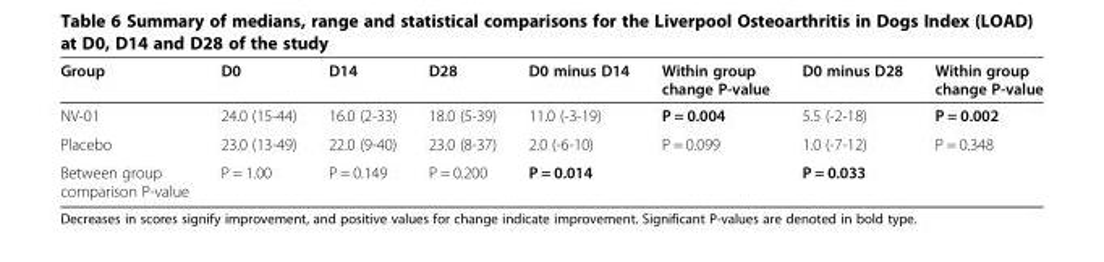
<table><thead><tr><td>Group</td><td>D0</td><td>D14</td><td>D28</td><td>D0 minus D14</td><td>Within group change P-value</td><td>D0 minus D28</td><td>Within group change P-value</td></tr></thead><tbody><tr><td>NV-01</td><td>24.0 (15-44)</td><td>16.0 (2-33)</td><td>18.0 (5-39)</td><td>11.0 (-3-19)</td><td>P = 0.004</td><td>5.5 (-2-18)</td><td>P = 0.002</td></tr><tr><td>Placebo</td><td>23.0 (13-49)</td><td>22.0 (9-40)</td><td>23.0 (8-37)</td><td>2.0 (-6-10)</td><td>P = 0.099</td><td>1.0 (-7-12)</td><td>P = 0.348</td></tr><tr><td>Between group comparison P-value</td><td>P = 1.00</td><td>P = 0.149</td><td>P = 0.200</td><td>P = 0.014</td><td></td><td>P = 0.033</td><td></td></tr></tbody></table>